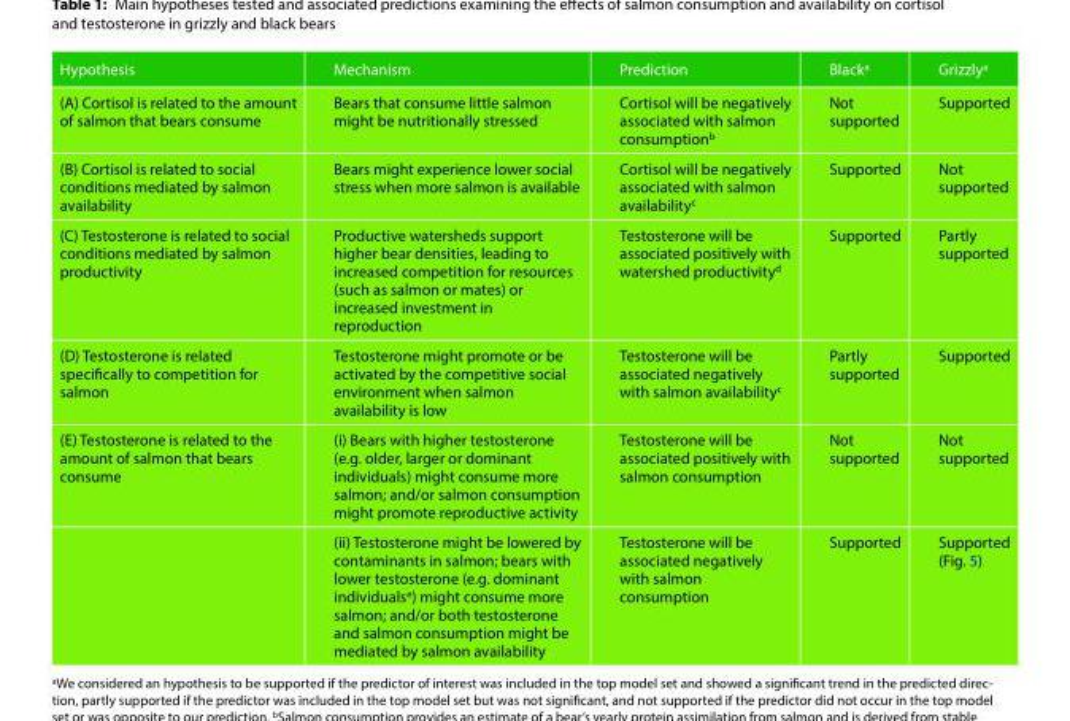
<table><thead><tr><td>Hypothesis</td><td>Mechanism</td><td>Prediction</td><td>Black<sup>a</sup></td><td>Grizzly<sup>a</sup></td></tr></thead><tbody><tr><td>(A) Cortisol is related to the amount of salmon that bears consume</td><td>Bears that consume little salmon might be nutritionally stressed</td><td>Cortisol will be negatively associated with salmon consumption<sup>b</sup></td><td>Not supported</td><td>Supported</td></tr><tr><td>(B) Cortisol is related to social conditions mediated by salmon availability</td><td>Bears might experience lower social stress when more salmon is available</td><td>Cortisol will be negatively associated with salmon availability<sup>c</sup></td><td>Supported</td><td>Not supported</td></tr><tr><td>(C) Testosterone is related to social conditions mediated by salmon productivity</td><td>Productive watersheds support higher bear densities, leading to increased competition for resources (such as salmon or mates) or increased investment in reproduction</td><td>Testosterone will be associated positively with watershed productivity<sup>d</sup></td><td>Supported</td><td>Partly supported</td></tr><tr><td>(D) Testosterone is related specifically to competition for salmon</td><td>Testosterone might promote or be activated by the competitive social environment when salmon availability is low</td><td>Testosterone will be associated negatively with salmon availability<sup>c</sup></td><td>Partly supported</td><td>Supported</td></tr><tr><td rowspan="2">(E) Testosterone is related to the amount of salmon that bears consume</td><td>(i) Bears with higher testosterone (e.g. older, larger or dominant individuals) might consume more salmon; and/or salmon consumption might promote reproductive activity</td><td>Testosterone will be associated positively with salmon consumption</td><td>Not supported</td><td>Not supported</td></tr><tr><td>(ii) Testosterone might be lowered by contaminants in salmon; bears with lower testosterone (e.g. dominant individuals<sup>e</sup>) might consume more salmon; and/or both testosterone and salmon consumption might be mediated by salmon availability</td><td>Testosterone will be associated negatively with salmon consumption</td><td>Supported</td><td>Supported (Fig. 5)</td></tr></tbody></table>